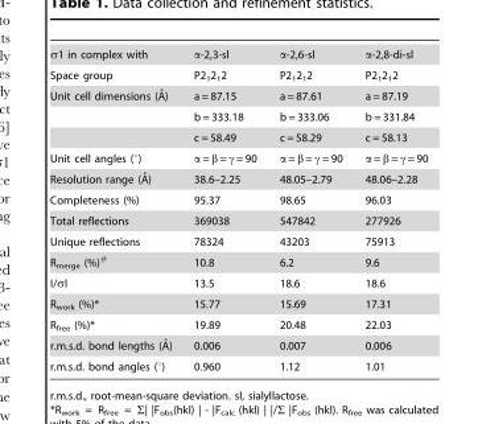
<table><tbody><tr><td>σ1 in complex with</td><td>α-2,3-sl</td><td>α-2,6-sl</td><td>α-2,8-di-sl</td></tr><tr><td>Space group</td><td>P2<sub>1</sub>2<sub>1</sub>2</td><td>P2<sub>1</sub>2<sub>1</sub>2</td><td>P2<sub>1</sub>2<sub>1</sub>2</td></tr><tr><td rowspan="3">Unit cell dimensions (A˚)</td><td>a = 87.15</td><td>a = 87.61</td><td>a = 87.19</td></tr><tr><td>b = 333.18</td><td>b = 333.06</td><td>b = 331.84</td></tr><tr><td>c = 58.49</td><td>c = 58.29</td><td>c = 58.13</td></tr><tr><td>Unit cell angles (°)</td><td>α = β = γ = 90</td><td>α = β = γ = 90</td><td>α = β = γ = 90</td></tr><tr><td>Resolution range (A˚)</td><td>38.6–2.25</td><td>48.05–2.79</td><td>48.06–2.28</td></tr><tr><td>Completeness (%)</td><td>95.37</td><td>98.65</td><td>96.03</td></tr><tr><td>Total reflections</td><td>369038</td><td>547842</td><td>277926</td></tr><tr><td>Unique reflections</td><td>78324</td><td>43203</td><td>75913</td></tr><tr><td>R<sub>merge</sub> (%)#</td><td>10.8</td><td>6.2</td><td>9.6</td></tr><tr><td>I/σI</td><td>13.5</td><td>18.6</td><td>18.6</td></tr><tr><td>R<sub>work</sub> (%)*</td><td>15.77</td><td>15.69</td><td>17.31</td></tr><tr><td>R<sub>free</sub> (%)*</td><td>19.89</td><td>20.48</td><td>22.03</td></tr><tr><td>r.m.s.d. bond lengths (A˚)</td><td>0.006</td><td>0.007</td><td>0.006</td></tr><tr><td>r.m.s.d. bond angles (°)</td><td>0.960</td><td>1.12</td><td>1.01</td></tr></tbody></table>